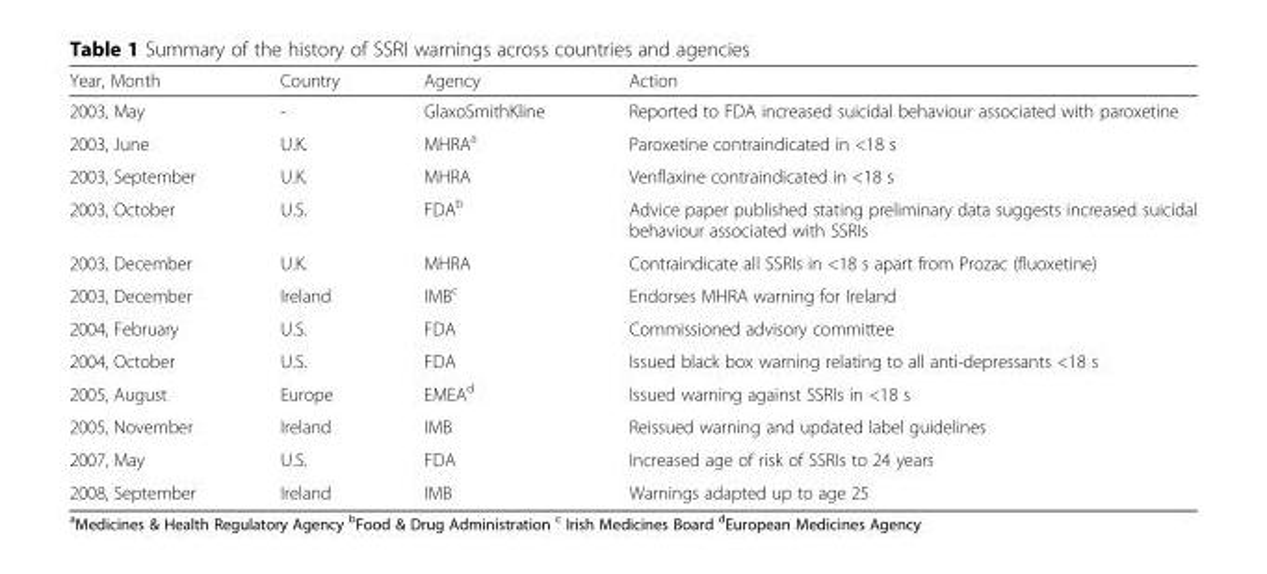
<table><thead><tr><td>Year, Month</td><td>Country</td><td>Agency</td><td>Action</td></tr></thead><tbody><tr><td>2003, May</td><td>-</td><td>GlaxoSmithKline</td><td>Reported to FDA increased suicidal behaviour associated with paroxetine</td></tr><tr><td>2003, June</td><td>U.K.</td><td>MHRA<sup>a</sup></td><td>Paroxetine contraindicated in &lt;18 s</td></tr><tr><td>2003, September</td><td>U.K.</td><td>MHRA</td><td>Venflaxine contraindicated in &lt;18 s</td></tr><tr><td>2003, October</td><td>U.S.</td><td>FDA<sup>b</sup></td><td>Advice paper published stating preliminary data suggests increased suicidal behaviour associated with SSRIs</td></tr><tr><td>2003, December</td><td>U.K.</td><td>MHRA</td><td>Contraindicate all SSRIs in &lt;18 s apart from Prozac (fluoxetine)</td></tr><tr><td>2003, December</td><td>Ireland</td><td>IMB<sup>c</sup></td><td>Endorses MHRA warning for Ireland</td></tr><tr><td>2004, February</td><td>U.S.</td><td>FDA</td><td>Commissioned advisory committee</td></tr><tr><td>2004, October</td><td>U.S.</td><td>FDA</td><td>Issued black box warning relating to all anti-depressants &lt;18 s</td></tr><tr><td>2005, August</td><td>Europe</td><td>EMEA<sup>d</sup></td><td>Issued warning against SSRIs in &lt;18 s</td></tr><tr><td>2005, November</td><td>Ireland</td><td>IMB</td><td>Reissued warning and updated label guidelines</td></tr><tr><td>2007, May</td><td>U.S.</td><td>FDA</td><td>Increased age of risk of SSRIs to 24 years</td></tr><tr><td>2008, September</td><td>Ireland</td><td>IMB</td><td>Warnings adapted up to age 25</td></tr></tbody></table>